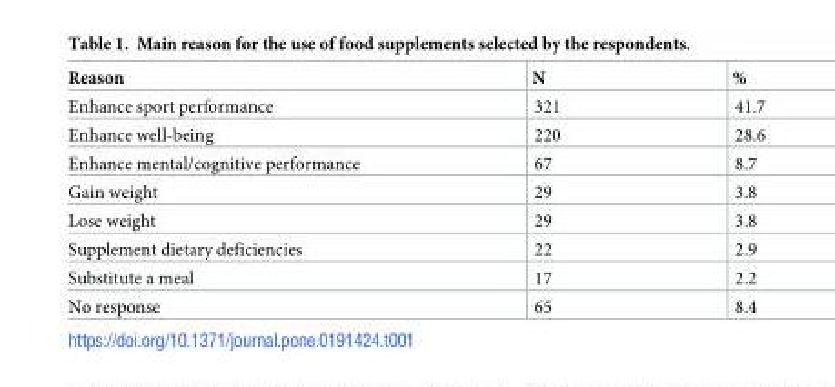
<table><thead><tr><td>Reason</td><td>N</td><td>%</td></tr></thead><tbody><tr><td>Enhance sport performance</td><td>321</td><td>41.7</td></tr><tr><td>Enhance well-being</td><td>220</td><td>28.6</td></tr><tr><td>Enhance mental/cognitive performance</td><td>67</td><td>8.7</td></tr><tr><td>Gain weight</td><td>29</td><td>3.8</td></tr><tr><td>Lose weight</td><td>29</td><td>3.8</td></tr><tr><td>Supplement dietary deficiencies</td><td>22</td><td>2.9</td></tr><tr><td>Substitute a meal</td><td>17</td><td>2.2</td></tr><tr><td>No response</td><td>65</td><td>8.4</td></tr></tbody></table>